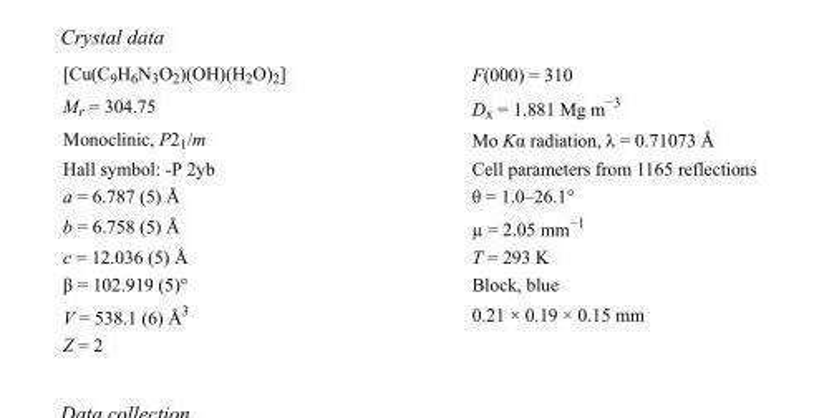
<table><tbody><tr><td>[Cu(C<sub>9</sub>H<sub>6</sub>N<sub>3</sub>O<sub>2</sub>)(OH)(H<sub>2</sub>O)<sub>2</sub>]</td><td>F(000) = 310</td></tr><tr><td>M<sub>r</sub> = 304.75</td><td>D<sub>x</sub> = 1.881 Mg m<sup>−3</sup></td></tr><tr><td>Monoclinic, P2<sub>1</sub>/m</td><td>Mo Kα radiation, λ = 0.71073 Å</td></tr><tr><td>Hall symbol: -P 2yb</td><td>Cell parameters from 1165 reflections</td></tr><tr><td>a = 6.787 (5) Å</td><td>θ = 1.0–26.1°</td></tr><tr><td>b = 6.758 (5) Å</td><td>µ = 2.05 mm<sup>−1</sup></td></tr><tr><td>c = 12.036 (5) Å</td><td>T = 293 K</td></tr><tr><td>β = 102.919 (5)°</td><td>Block, blue</td></tr><tr><td>V = 538.1 (6) Å<sup>3</sup></td><td>0.21 × 0.19 × 0.15 mm</td></tr><tr><td>Z = 2</td><td></td></tr></tbody></table>